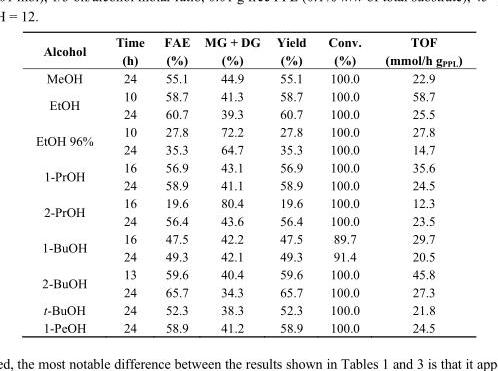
<table><thead><tr><td>Alcohol</td><td>Time (h)</td><td>FAE (%)</td><td>MG + DG (%)</td><td>Yield (%)</td><td>Conv. (%)</td><td>TOF (mmol/h g<sub>PPL</sub>)</td></tr></thead><tbody><tr><td>MeOH</td><td>24</td><td>55.1</td><td>44.9</td><td>55.1</td><td>100.0</td><td>22.9</td></tr><tr><td rowspan="2">EtOH</td><td>10</td><td>58.7</td><td>41.3</td><td>58.7</td><td>100.0</td><td>58.7</td></tr><tr><td>24</td><td>60.7</td><td>39.3</td><td>60.7</td><td>100.0</td><td>25.5</td></tr><tr><td rowspan="2">EtOH 96%</td><td>10</td><td>27.8</td><td>72.2</td><td>27.8</td><td>100.0</td><td>27.8</td></tr><tr><td>24</td><td>35.3</td><td>64.7</td><td>35.3</td><td>100.0</td><td>14.7</td></tr><tr><td rowspan="2">1-PrOH</td><td>16</td><td>56.9</td><td>43.1</td><td>56.9</td><td>100.0</td><td>35.6</td></tr><tr><td>24</td><td>58.9</td><td>41.1</td><td>58.9</td><td>100.0</td><td>24.5</td></tr><tr><td rowspan="2">2-PrOH</td><td>16</td><td>19.6</td><td>80.4</td><td>19.6</td><td>100.0</td><td>12.3</td></tr><tr><td>24</td><td>56.4</td><td>43.6</td><td>56.4</td><td>100.0</td><td>23.5</td></tr><tr><td rowspan="2">1-BuOH</td><td>16</td><td>47.5</td><td>42.2</td><td>47.5</td><td>89.7</td><td>29.7</td></tr><tr><td>24</td><td>49.3</td><td>42.1</td><td>49.3</td><td>91.4</td><td>20.5</td></tr><tr><td rowspan="2">2-BuOH</td><td>13</td><td>59.6</td><td>40.4</td><td>59.6</td><td>100.0</td><td>45.8</td></tr><tr><td>24</td><td>65.7</td><td>34.3</td><td>65.7</td><td>100.0</td><td>27.3</td></tr><tr><td>t-BuOH</td><td>24</td><td>52.3</td><td>38.3</td><td>52.3</td><td>100.0</td><td>21.8</td></tr><tr><td>1-PeOH</td><td>24</td><td>58.9</td><td>41.2</td><td>58.9</td><td>100.0</td><td>24.5</td></tr></tbody></table>